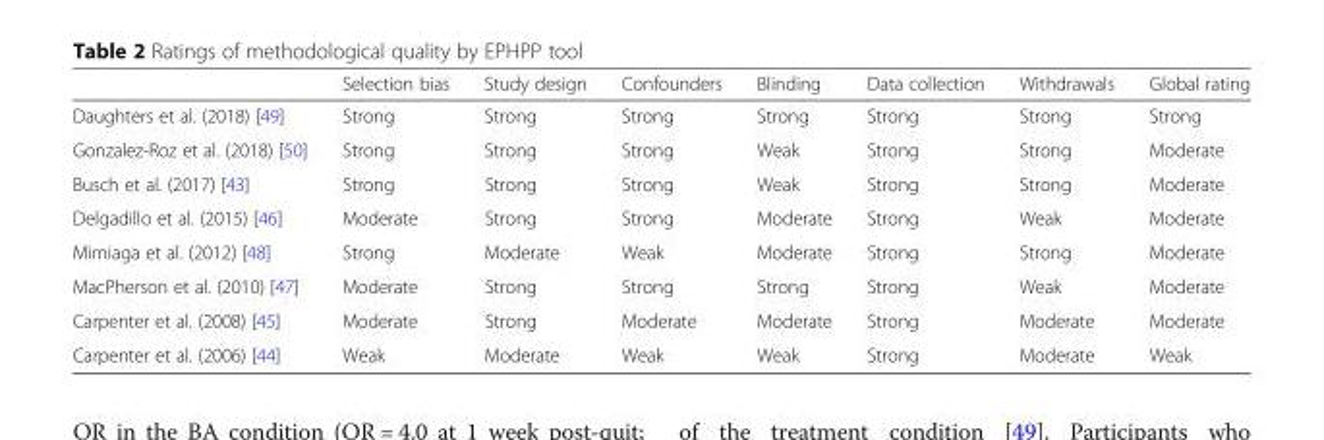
<table><thead><tr><td></td><td>Selection bias</td><td>Study design</td><td>Confounders</td><td>Blinding</td><td>Data collection</td><td>Withdrawals</td><td>Global rating</td></tr></thead><tbody><tr><td>Daughters et al. (2018) [49]</td><td>Strong</td><td>Strong</td><td>Strong</td><td>Strong</td><td>Strong</td><td>Strong</td><td>Strong</td></tr><tr><td>Gonzalez-Roz et al. (2018) [50]</td><td>Strong</td><td>Strong</td><td>Strong</td><td>Weak</td><td>Strong</td><td>Strong</td><td>Moderate</td></tr><tr><td>Busch et al. (2017) [43]</td><td>Strong</td><td>Strong</td><td>Strong</td><td>Weak</td><td>Strong</td><td>Strong</td><td>Moderate</td></tr><tr><td>Delgadillo et al. (2015) [46]</td><td>Moderate</td><td>Strong</td><td>Strong</td><td>Moderate</td><td>Strong</td><td>Weak</td><td>Moderate</td></tr><tr><td>Mimiaga et al. (2012) [48]</td><td>Strong</td><td>Moderate</td><td>Weak</td><td>Moderate</td><td>Strong</td><td>Strong</td><td>Moderate</td></tr><tr><td>MacPherson et al. (2010) [47]</td><td>Moderate</td><td>Strong</td><td>Strong</td><td>Strong</td><td>Strong</td><td>Weak</td><td>Moderate</td></tr><tr><td>Carpenter et al. (2008) [45]</td><td>Moderate</td><td>Strong</td><td>Moderate</td><td>Moderate</td><td>Strong</td><td>Moderate</td><td>Moderate</td></tr><tr><td>Carpenter et al. (2006) [44]</td><td>Weak</td><td>Moderate</td><td>Weak</td><td>Weak</td><td>Strong</td><td>Moderate</td><td>Weak</td></tr></tbody></table>